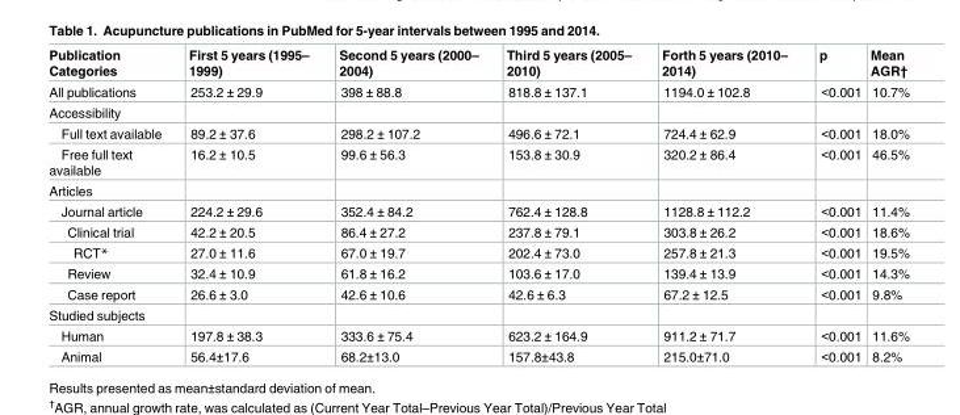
<table><thead><tr><td>Publication Categories</td><td>First 5 years (1995– 1999)</td><td>Second 5 years (2000– 2004)</td><td>Third 5 years (2005– 2010)</td><td>Forth 5 years (2010– 2014)</td><td>p</td><td>Mean AGR†</td></tr></thead><tbody><tr><td>All publications</td><td>253.2 ± 29.9</td><td>398 ± 88.8</td><td>818.8 ± 137.1</td><td>1194.0 ± 102.8</td><td>&lt;0.001</td><td>10.7%</td></tr><tr><td colspan="7">Accessibility</td></tr><tr><td>Full text available</td><td>89.2 ± 37.6</td><td>298.2 ± 107.2</td><td>496.6 ± 72.1</td><td>724.4 ± 62.9</td><td>&lt;0.001</td><td>18.0%</td></tr><tr><td>Free full text available</td><td>16.2 ± 10.5</td><td>99.6 ± 56.3</td><td>153.8 ± 30.9</td><td>320.2 ± 86.4</td><td>&lt;0.001</td><td>46.5%</td></tr><tr><td colspan="7">Articles</td></tr><tr><td>Journal article</td><td>224.2 ± 29.6</td><td>352.4 ± 84.2</td><td>762.4 ± 128.8</td><td>1128.8 ± 112.2</td><td>&lt;0.001</td><td>11.4%</td></tr><tr><td>Clinical trial</td><td>42.2 ± 20.5</td><td>86.4 ± 27.2</td><td>237.8 ± 79.1</td><td>303.8 ± 26.2</td><td>&lt;0.001</td><td>18.6%</td></tr><tr><td>RCT*</td><td>27.0 ± 11.6</td><td>67.0 ± 19.7</td><td>202.4 ± 73.0</td><td>257.8 ± 21.3</td><td>&lt;0.001</td><td>19.5%</td></tr><tr><td>Review</td><td>32.4 ± 10.9</td><td>61.8 ± 16.2</td><td>103.6 ± 17.0</td><td>139.4 ± 13.9</td><td>&lt;0.001</td><td>14.3%</td></tr><tr><td>Case report</td><td>26.6 ± 3.0</td><td>42.6 ± 10.6</td><td>42.6 ± 6.3</td><td>67.2 ± 12.5</td><td>&lt;0.001</td><td>9.8%</td></tr><tr><td colspan="7">Studied subjects</td></tr><tr><td>Human</td><td>197.8 ± 38.3</td><td>333.6 ± 75.4</td><td>623.2 ± 164.9</td><td>911.2 ± 71.7</td><td>&lt;0.001</td><td>11.6%</td></tr><tr><td>Animal</td><td>56.4±17.6</td><td>68.2±13.0</td><td>157.8±43.8</td><td>215.0±71.0</td><td>&lt;0.001</td><td>8.2%</td></tr></tbody></table>